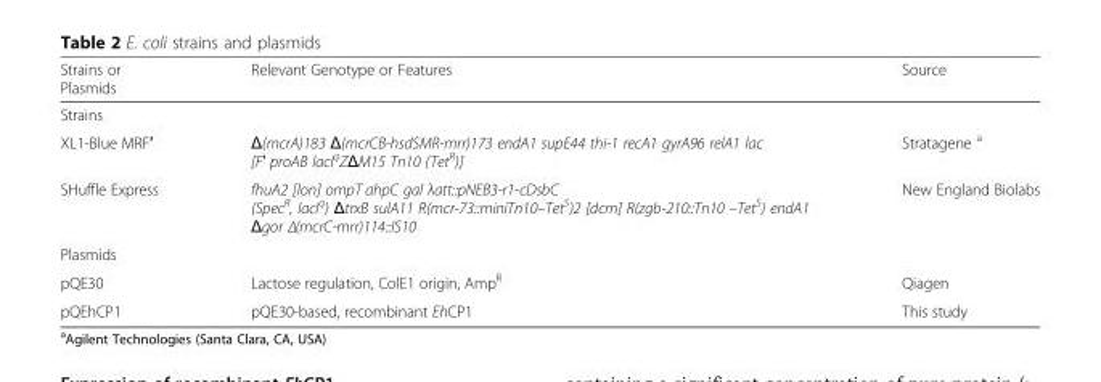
<table><thead><tr><td>Strains or Plasmids</td><td>Relevant Genotype or Features</td><td>Source</td></tr></thead><tbody><tr><td colspan="3">Strains</td></tr><tr><td>XL1-Blue MRF′</td><td>Δ(mcrA)183 Δ(mcrCB-hsdSMR-mrr)173 endA1 supE44 thi-1 recA1 gyrA96 relA1 lac [F′ proAB lacI<sup>q</sup>ZΔM15 Tn10 (Tet<sup>R</sup>)]</td><td>Stratagene <sup>a</sup></td></tr><tr><td>SHuffle Express</td><td>fhuA2 [lon] ompT ahpC gal λatt::pNEB3-r1-cDsbC (SpecR, lacIq) ΔtrxB sulA11 R(mcr-73::miniTn10–TetS)2 [dcm] R(zgb-210::Tn10 –TetS) endA1 Δgor Δ(mcrC-mrr)114::IS10</td><td>New England Biolabs</td></tr><tr><td colspan="3">Plasmids</td></tr><tr><td>pQE30</td><td>Lactose regulation, ColE1 origin, Amp<sup>R</sup></td><td>Qiagen</td></tr><tr><td>pQEhCP1</td><td>pQE30-based, recombinant EhCP1</td><td>This study</td></tr></tbody></table>